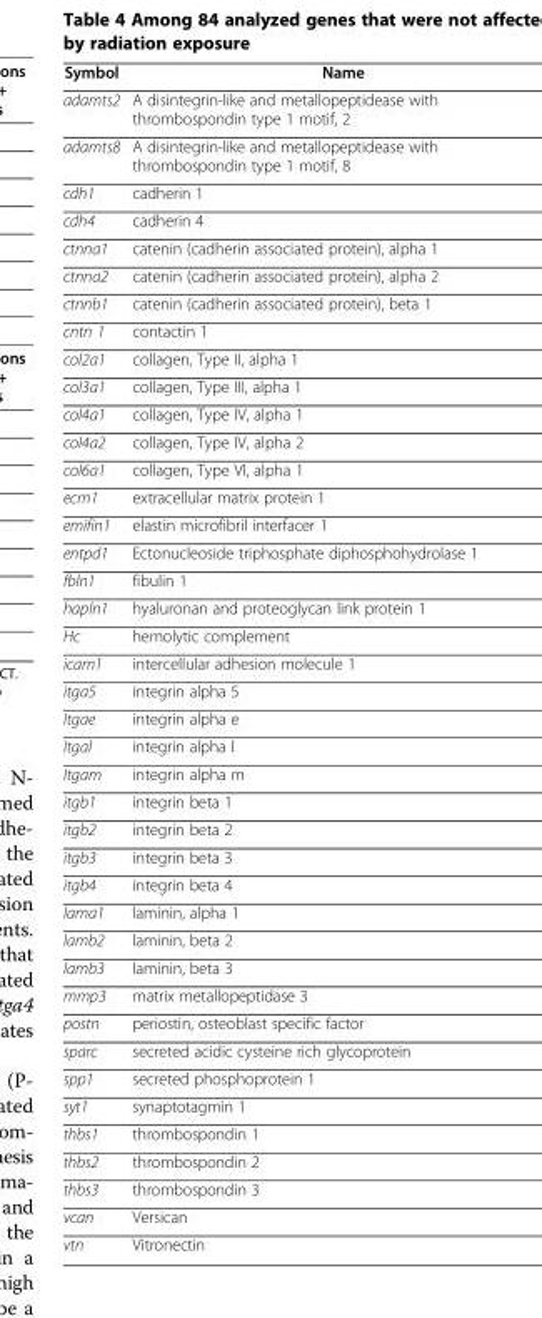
<table><thead><tr><td>Symbol</td><td>Name</td></tr></thead><tbody><tr><td>adamts2</td><td>A disintegrin-like and metallopeptidease with thrombospondin type 1 motif, 2</td></tr><tr><td>adamts8</td><td>A disintegrin-like and metallopeptidease with thrombospondin type 1 motif, 8</td></tr><tr><td>cdh1</td><td>cadherin 1</td></tr><tr><td>cdh4</td><td>cadherin 4</td></tr><tr><td>ctnna1</td><td>catenin (cadherin associated protein), alpha 1</td></tr><tr><td>ctnna2</td><td>catenin (cadherin associated protein), alpha 2</td></tr><tr><td>ctnnb1</td><td>catenin (cadherin associated protein), beta 1</td></tr><tr><td>cntn 1</td><td>contactin 1</td></tr><tr><td>col2a1</td><td>collagen, Type II, alpha 1</td></tr><tr><td>col3a1</td><td>collagen, Type III, alpha 1</td></tr><tr><td>col4a1</td><td>collagen, Type IV, alpha 1</td></tr><tr><td>col4a2</td><td>collagen, Type IV, alpha 2</td></tr><tr><td>col6a1</td><td>collagen, Type VI, alpha 1</td></tr><tr><td>ecm1</td><td>extracellular matrix protein 1</td></tr><tr><td>emifin1</td><td>elastin microfibril interfacer 1</td></tr><tr><td>entpd1</td><td>Ectonucleoside triphosphate diphosphohydrolase 1</td></tr><tr><td>fbln1</td><td>fibulin 1</td></tr><tr><td>hapln1</td><td>hyaluronan and proteoglycan link protein 1</td></tr><tr><td>Hc</td><td>hemolytic complement</td></tr><tr><td>icam1</td><td>intercellular adhesion molecule 1</td></tr><tr><td>itga5</td><td>integrin alpha 5</td></tr><tr><td>Itgae</td><td>integrin alpha e</td></tr><tr><td>Itgal</td><td>integrin alpha l</td></tr><tr><td>Itgam</td><td>integrin alpha m</td></tr><tr><td>itgb1</td><td>integrin beta 1</td></tr><tr><td>itgb2</td><td>integrin beta 2</td></tr><tr><td>itgb3</td><td>integrin beta 3</td></tr><tr><td>itgb4</td><td>integrin beta 4</td></tr><tr><td>lama1</td><td>laminin, alpha 1</td></tr><tr><td>lamb2</td><td>laminin, beta 2</td></tr><tr><td>lamb3</td><td>laminin, beta 3</td></tr><tr><td>mmp3</td><td>matrix metallopeptidase 3</td></tr><tr><td>postn</td><td>periostin, osteoblast specific factor</td></tr><tr><td>sparc</td><td>secreted acidic cysteine rich glycoprotein</td></tr><tr><td>spp1</td><td>secreted phosphoprotein 1</td></tr><tr><td>syt1</td><td>synaptotagmin 1</td></tr><tr><td>thbs1</td><td>thrombospondin 1</td></tr><tr><td>thbs2</td><td>thrombospondin 2</td></tr><tr><td>thbs3</td><td>thrombospondin 3</td></tr><tr><td>vcan</td><td>Versican</td></tr><tr><td>vtn</td><td>Vitronectin</td></tr></tbody></table>